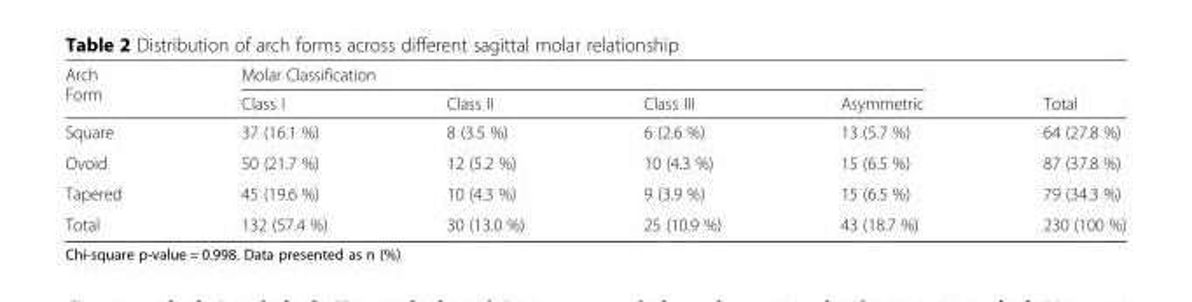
<table><thead><tr><td rowspan="2">Arch Form</td><td colspan="4">Molar Classification</td><td rowspan="2">Total</td></tr><tr><td>Class I</td><td>Class II</td><td>Class III</td><td>Asymmetric</td></tr></thead><tbody><tr><td>Square</td><td>37 (16.1 %)</td><td>8 (3.5 %)</td><td>6 (2.6 %)</td><td>13 (5.7 %)</td><td>64 (27.8 %)</td></tr><tr><td>Ovoid</td><td>50 (21.7 %)</td><td>12 (5.2 %)</td><td>10 (4.3 %)</td><td>15 (6.5 %)</td><td>87 (37.8 %)</td></tr><tr><td>Tapered</td><td>45 (19.6 %)</td><td>10 (4.3 %)</td><td>9 (3.9 %)</td><td>15 (6.5 %)</td><td>79 (34.3 %)</td></tr><tr><td>Total</td><td>132 (57.4 %)</td><td>30 (13.0 %)</td><td>25 (10.9 %)</td><td>43 (18.7 %)</td><td>230 (100 %)</td></tr></tbody></table>